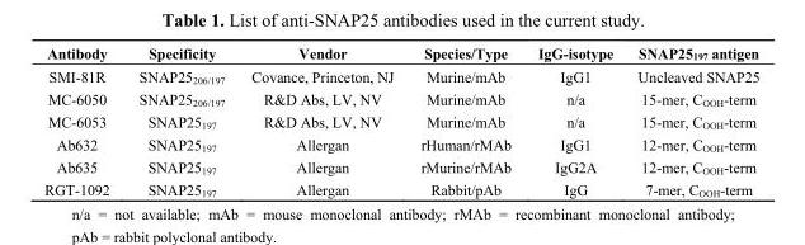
<table><thead><tr><td>Antibody</td><td>Specificity</td><td>Vendor</td><td>Species/Type</td><td>IgG-isotype</td><td>SNAP25<sub>197</sub> antigen</td></tr></thead><tbody><tr><td>SMI-81R</td><td>SNAP25<sub>206/197</sub></td><td>Covance, Princeton, NJ</td><td>Murine/mAb</td><td>IgG1</td><td>Uncleaved SNAP25</td></tr><tr><td>MC-6050</td><td>SNAP25<sub>206/197</sub></td><td>R&amp;D Abs, LV, NV</td><td>Murine/mAb</td><td>n/a</td><td>15-mer, C<sub>OOH</sub>-term</td></tr><tr><td>MC-6053</td><td>SNAP25<sub>197</sub></td><td>R&amp;D Abs, LV, NV</td><td>Murine/mAb</td><td>n/a</td><td>15-mer, C<sub>OOH</sub>-term</td></tr><tr><td>Ab632</td><td>SNAP25<sub>197</sub></td><td>Allergan</td><td>rHuman/rMAb</td><td>IgG1</td><td>12-mer, C<sub>OOH</sub>-term</td></tr><tr><td>Ab635</td><td>SNAP25<sub>197</sub></td><td>Allergan</td><td>rMurine/rMAb</td><td>IgG2A</td><td>12-mer, C<sub>OOH</sub>-term</td></tr><tr><td>RGT-1092</td><td>SNAP25<sub>197</sub></td><td>Allergan</td><td>Rabbit/pAb</td><td>IgG</td><td>7-mer, C<sub>OOH</sub>-term</td></tr></tbody></table>